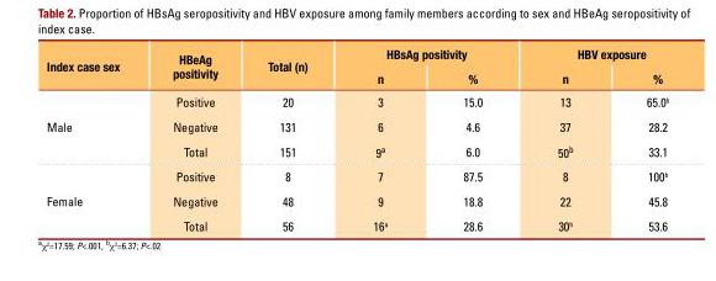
<table><thead><tr><td rowspan="2">Index case sex</td><td rowspan="2">HBeAg positivity</td><td rowspan="2">Total (n)</td><td colspan="2">HBsAg positivity</td><td colspan="2">HBV exposure</td></tr><tr><td>n</td><td>%</td><td>n</td><td>%</td></tr></thead><tbody><tr><td rowspan="3">Male</td><td>positive</td><td>20</td><td>3</td><td>15.0</td><td>13</td><td>65.0<sup>b</sup></td></tr><tr><td>Negative</td><td>131</td><td>6</td><td>4.6</td><td>37</td><td>28.2</td></tr><tr><td>total</td><td>151</td><td>9a</td><td>6.0</td><td>50<sup>b</sup></td><td>33.1</td></tr><tr><td rowspan="3">Female</td><td>positive</td><td>8</td><td>7</td><td>87.5</td><td>8</td><td>100<sup>b</sup></td></tr><tr><td>Negative</td><td>48</td><td>9</td><td>18.8</td><td>22</td><td>45.8</td></tr><tr><td>total</td><td>56</td><td>16a</td><td>28.6</td><td>30<sup>b</sup></td><td>53.6</td></tr></tbody></table>